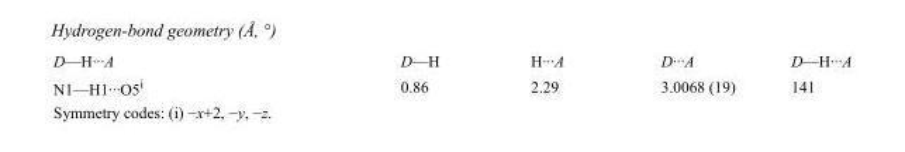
<table><tbody><tr><td>D—H···A</td><td>D—H</td><td>H···A</td><td>D···A</td><td>D—H···A</td></tr><tr><td>N1—H1···O5<sup>i</sup></td><td>0.86</td><td>2.29</td><td>3.0068 (19)</td><td>141</td></tr></tbody></table>